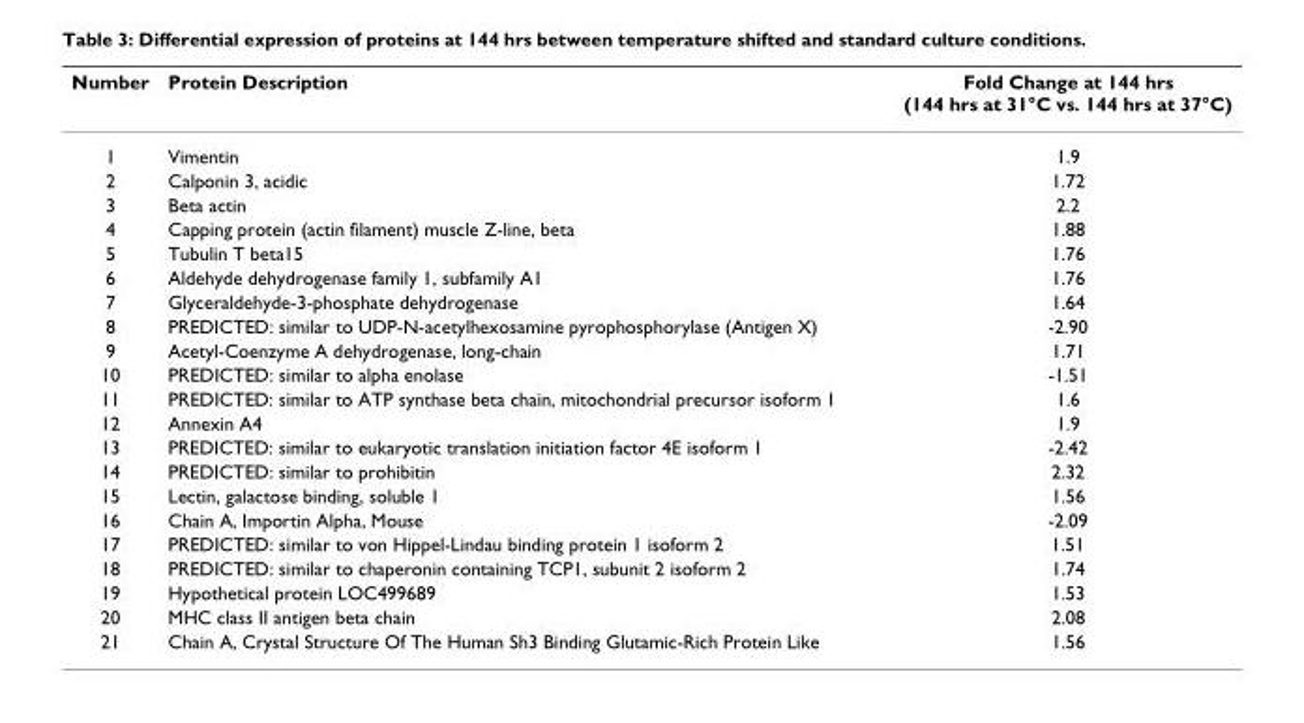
<table><thead><tr><td>Number</td><td>Protein Description</td><td>Fold Change at 144 hrs (144 hrs at 31°C vs. 144 hrs at 37°C)</td></tr></thead><tbody><tr><td>1</td><td>Vimentin</td><td>1.9</td></tr><tr><td>2</td><td>Calponin 3, acidic</td><td>1.72</td></tr><tr><td>3</td><td>Beta actin</td><td>2.2</td></tr><tr><td>4</td><td>Capping protein (actin filament) muscle Z-line, beta</td><td>1.88</td></tr><tr><td>5</td><td>Tubulin T beta15</td><td>1.76</td></tr><tr><td>6</td><td>Aldehyde dehydrogenase family 1, subfamily A1</td><td>1.76</td></tr><tr><td>7</td><td>Glyceraldehyde-3-phosphate dehydrogenase</td><td>1.64</td></tr><tr><td>8</td><td>PREDICTED: similar to UDP-N-acetylhexosamine pyrophosphorylase (Antigen X)</td><td>-2.90</td></tr><tr><td>9</td><td>Acetyl-Coenzyme A dehydrogenase, long-chain</td><td>1.71</td></tr><tr><td>10</td><td>PREDICTED: similar to alpha enolase</td><td>-1.51</td></tr><tr><td>11</td><td>PREDICTED: similar to ATP synthase beta chain, mitochondrial precursor isoform 1</td><td>1.6</td></tr><tr><td>12</td><td>Annexin A4</td><td>1.9</td></tr><tr><td>13</td><td>PREDICTED: similar to eukaryotic translation initiation factor 4E isoform 1</td><td>-2.42</td></tr><tr><td>14</td><td>PREDICTED: similar to prohibitin</td><td>2.32</td></tr><tr><td>15</td><td>Lectin, galactose binding, soluble 1</td><td>1.56</td></tr><tr><td>16</td><td>Chain A, Importin Alpha, Mouse</td><td>-2.09</td></tr><tr><td>17</td><td>PREDICTED: similar to von Hippel-Lindau binding protein 1 isoform 2</td><td>1.51</td></tr><tr><td>18</td><td>PREDICTED: similar to chaperonin containing TCP1, subunit 2 isoform 2</td><td>1.74</td></tr><tr><td>19</td><td>Hypothetical protein LOC499689</td><td>1.53</td></tr><tr><td>20</td><td>MHC class II antigen beta chain</td><td>2.08</td></tr><tr><td>21</td><td>Chain A, Crystal Structure Of The Human Sh3 Binding Glutamic-Rich Protein Like</td><td>1.56</td></tr></tbody></table>